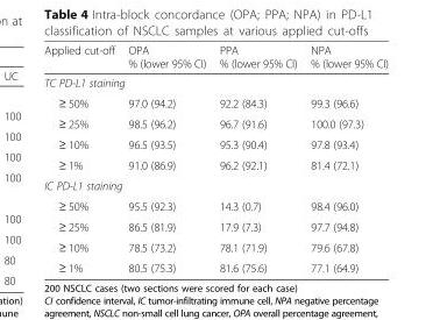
<table><thead><tr><td>Applied cut-off</td><td>OPA % (lower 95% CI)</td><td>PPA % (lower 95% CI)</td><td>NPA % (lower 95% CI)</td></tr></thead><tbody><tr><td colspan="4">TC PD-L1 staining</td></tr><tr><td>≥ 50%</td><td>97.0 (94.2)</td><td>92.2 (84.3)</td><td>99.3 (96.6)</td></tr><tr><td>≥ 25%</td><td>98.5 (96.2)</td><td>96.7 (91.6)</td><td>100.0 (97.3)</td></tr><tr><td>≥ 10%</td><td>96.5 (93.5)</td><td>95.3 (90.4)</td><td>97.8 (93.4)</td></tr><tr><td>≥ 1%</td><td>91.0 (86.9)</td><td>96.2 (92.1)</td><td>81.4 (72.1)</td></tr><tr><td colspan="4">IC PD-L1 staining</td></tr><tr><td>≥ 50%</td><td>95.5 (92.3)</td><td>14.3 (0.7)</td><td>98.4 (96.0)</td></tr><tr><td>≥ 25%</td><td>86.5 (81.9)</td><td>17.9 (7.3)</td><td>97.7 (94.8)</td></tr><tr><td>≥ 10%</td><td>78.5 (73.2)</td><td>78.1 (71.9)</td><td>79.6 (67.8)</td></tr><tr><td>≥ 1%</td><td>80.5 (75.3)</td><td>81.6 (75.6)</td><td>77.1 (64.9)</td></tr></tbody></table>